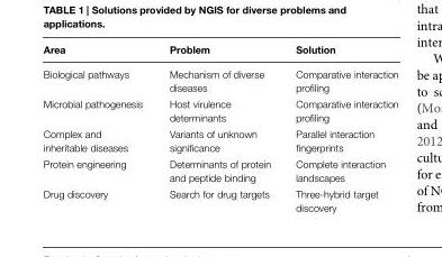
<table><thead><tr><td>Area</td><td>Problem</td><td>Solution</td></tr></thead><tbody><tr><td>Biological pathways</td><td>Mechanism of diverse diseases</td><td>Comparative interaction profiling</td></tr><tr><td>Microbial pathogenesis</td><td>Host virulence determinants</td><td>Comparative interaction profiling</td></tr><tr><td>Complex and inheritable diseases</td><td>Variants of unknown significance</td><td>Parallel interaction fingerprints</td></tr><tr><td>Protein engineering</td><td>Determinants of protein and peptide binding</td><td>Complete interaction landscapes</td></tr><tr><td>Drug discovery</td><td>Search for drug targets</td><td>Three-hybrid target discovery</td></tr></tbody></table>